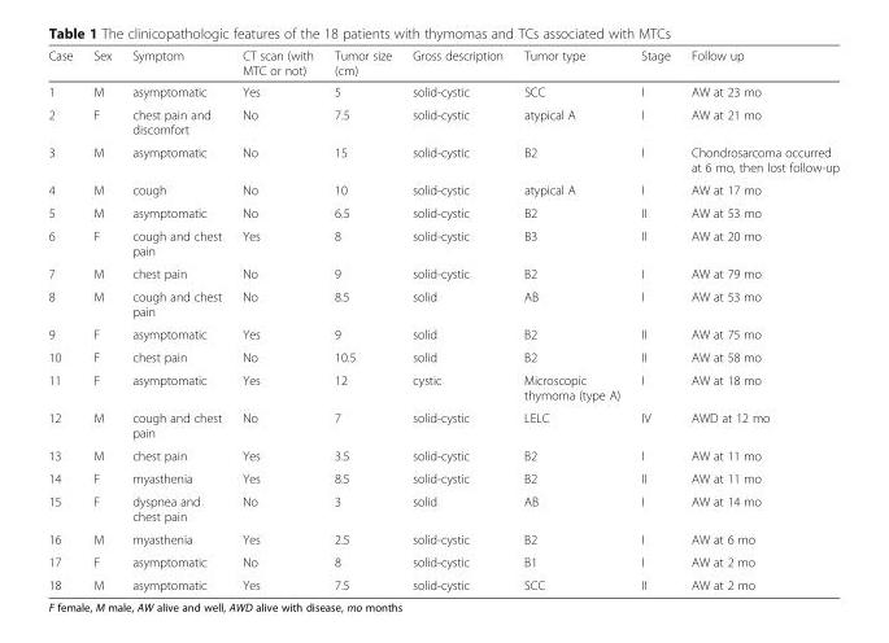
<table><thead><tr><td>Case</td><td>Sex</td><td>Symptom</td><td>CT scan (with MTC or not)</td><td>Tumor size (cm)</td><td>Gross description</td><td>Tumor type</td><td>Stage</td><td>Follow up</td></tr></thead><tbody><tr><td>1</td><td>M</td><td>asymptomatic</td><td>Yes</td><td>5</td><td>solid-cystic</td><td>SCC</td><td>I</td><td>AW at 23 mo</td></tr><tr><td>2</td><td>F</td><td>chest pain and discomfort</td><td>No</td><td>7.5</td><td>solid-cystic</td><td>atypical A</td><td>I</td><td>AW at 21 mo</td></tr><tr><td>3</td><td>M</td><td>asymptomatic</td><td>No</td><td>15</td><td>solid-cystic</td><td>B2</td><td>I</td><td>Chondrosarcoma occurred at 6 mo, then lost follow-up</td></tr><tr><td>4</td><td>M</td><td>cough</td><td>No</td><td>10</td><td>solid-cystic</td><td>atypical A</td><td>I</td><td>AW at 17 mo</td></tr><tr><td>5</td><td>M</td><td>asymptomatic</td><td>No</td><td>6.5</td><td>solid-cystic</td><td>B2</td><td>II</td><td>AW at 53 mo</td></tr><tr><td>6</td><td>F</td><td>cough and chest pain</td><td>Yes</td><td>8</td><td>solid-cystic</td><td>B3</td><td>II</td><td>AW at 20 mo</td></tr><tr><td>7</td><td>M</td><td>chest pain</td><td>No</td><td>9</td><td>solid-cystic</td><td>B2</td><td>I</td><td>AW at 79 mo</td></tr><tr><td>8</td><td>M</td><td>cough and chest pain</td><td>No</td><td>8.5</td><td>solid</td><td>AB</td><td>I</td><td>AW at 53 mo</td></tr><tr><td>9</td><td>F</td><td>asymptomatic</td><td>Yes</td><td>9</td><td>solid</td><td>B2</td><td>II</td><td>AW at 75 mo</td></tr><tr><td>10</td><td>F</td><td>chest pain</td><td>No</td><td>10.5</td><td>solid</td><td>B2</td><td>II</td><td>AW at 58 mo</td></tr><tr><td>11</td><td>F</td><td>asymptomatic</td><td>Yes</td><td>12</td><td>cystic</td><td>Microscopic thymoma (type A)</td><td>I</td><td>AW at 18 mo</td></tr><tr><td>12</td><td>M</td><td>cough and chest pain</td><td>No</td><td>7</td><td>solid-cystic</td><td>LELC</td><td>IV</td><td>AWD at 12 mo</td></tr><tr><td>13</td><td>M</td><td>chest pain</td><td>Yes</td><td>3.5</td><td>solid-cystic</td><td>B2</td><td>I</td><td>AW at 11 mo</td></tr><tr><td>14</td><td>F</td><td>myasthenia</td><td>Yes</td><td>8.5</td><td>solid-cystic</td><td>B2</td><td>II</td><td>AW at 11 mo</td></tr><tr><td>15</td><td>F</td><td>dyspnea and chest pain</td><td>No</td><td>3</td><td>solid</td><td>AB</td><td>I</td><td>AW at 14 mo</td></tr><tr><td>16</td><td>M</td><td>myasthenia</td><td>Yes</td><td>2.5</td><td>solid-cystic</td><td>B2</td><td>I</td><td>AW at 6 mo</td></tr><tr><td>17</td><td>F</td><td>asymptomatic</td><td>No</td><td>8</td><td>solid-cystic</td><td>B1</td><td>I</td><td>AW at 2 mo</td></tr><tr><td>18</td><td>M</td><td>asymptomatic</td><td>Yes</td><td>7.5</td><td>solid-cystic</td><td>SCC</td><td>II</td><td>AW at 2 mo</td></tr></tbody></table>